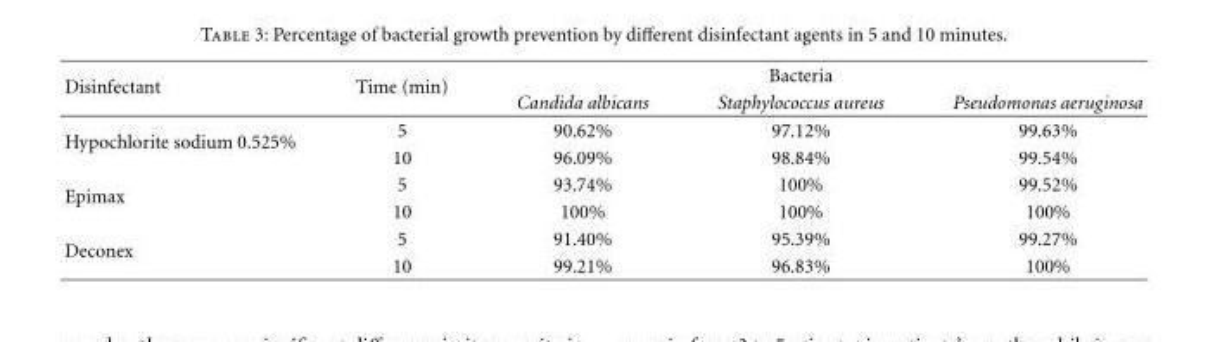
<table><thead><tr><td rowspan="2">Disinfectant</td><td rowspan="2">Time (min)</td><td colspan="3">Bacteria</td></tr><tr><td>Candida albicans</td><td>Staphylococcus aureus</td><td>Pseudomonas aeruginosa</td></tr></thead><tbody><tr><td rowspan="2">Hypochlorite sodium 0.525%</td><td>5</td><td>90.62%</td><td>97.12%</td><td>99.63%</td></tr><tr><td>10</td><td>96.09%</td><td>98.84%</td><td>99.54%</td></tr><tr><td rowspan="2">Epimax</td><td>5</td><td>93.74%</td><td>100%</td><td>99.52%</td></tr><tr><td>10</td><td>100%</td><td>100%</td><td>100%</td></tr><tr><td rowspan="2">Deconex</td><td>5</td><td>91.40%</td><td>95.39%</td><td>99.27%</td></tr><tr><td>10</td><td>99.21%</td><td>96.83%</td><td>100%</td></tr></tbody></table>